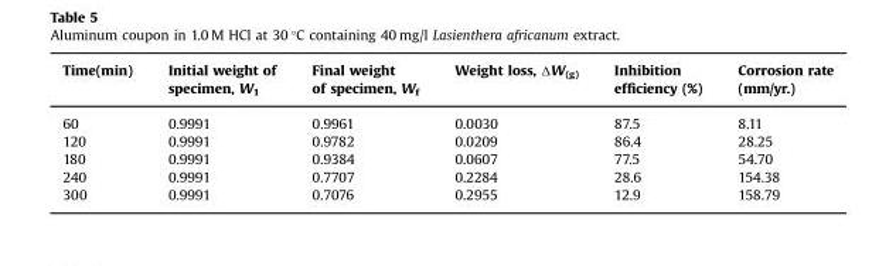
<table><thead><tr><td>Time(min)</td><td>Initial weight of specimen, W<sub>1</sub></td><td>Final weight of specimen, W<sub>f</sub></td><td>Weight loss, ΔW(g)</td><td>Inhibition efficiency (%)</td><td>Corrosion rate (mm/yr.)</td></tr></thead><tbody><tr><td>60</td><td>0.9991</td><td>0.9961</td><td>0.0030</td><td>87.5</td><td>8.11</td></tr><tr><td>120</td><td>0.9991</td><td>0.9782</td><td>0.0209</td><td>86.4</td><td>28.25</td></tr><tr><td>180</td><td>0.9991</td><td>0.9384</td><td>0.0607</td><td>77.5</td><td>54.70</td></tr><tr><td>240</td><td>0.9991</td><td>0.7707</td><td>0.2284</td><td>28.6</td><td>154.38</td></tr><tr><td>300</td><td>0.9991</td><td>0.7076</td><td>0.2955</td><td>12.9</td><td>158.79</td></tr></tbody></table>